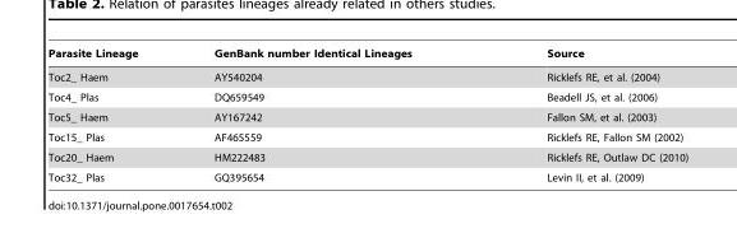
<table><thead><tr><td>Parasite Lineage</td><td>GenBank number Identical Lineages</td><td>Source</td></tr></thead><tbody><tr><td>Toc2_ Haem</td><td>AY540204</td><td>Ricklefs RE, et al. (2004)</td></tr><tr><td>Toc4_ Plas</td><td>DQ659549</td><td>Beadell JS, et al. (2006)</td></tr><tr><td>Toc5_ Haem</td><td>AY167242</td><td>Fallon SM, et al. (2003)</td></tr><tr><td>Toc15_ Plas</td><td>AF465559</td><td>Ricklefs RE, Fallon SM (2002)</td></tr><tr><td>Toc20_ Haem</td><td>HM222483</td><td>Ricklefs RE, Outlaw DC (2010)</td></tr><tr><td>Toc32_ Plas</td><td>GQ395654</td><td>Levin II, et al. (2009)</td></tr></tbody></table>